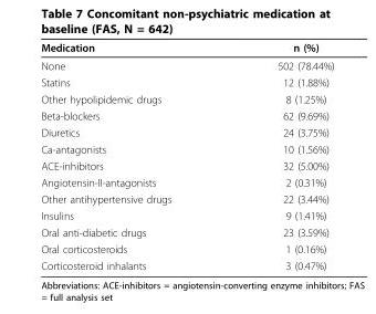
<table><thead><tr><td>Medication</td><td>n (%)</td></tr></thead><tbody><tr><td>None</td><td>502 (78.44%)</td></tr><tr><td>Statins</td><td>12 (1.88%)</td></tr><tr><td>Other hypolipidemic drugs</td><td>8 (1.25%)</td></tr><tr><td>Beta-blockers</td><td>62 (9.69%)</td></tr><tr><td>Diuretics</td><td>24 (3.75%)</td></tr><tr><td>Ca-antagonists</td><td>10 (1.56%)</td></tr><tr><td>ACE-inhibitors</td><td>32 (5.00%)</td></tr><tr><td>Angiotensin-II-antagonists</td><td>2 (0.31%)</td></tr><tr><td>Other antihypertensive drugs</td><td>22 (3.44%)</td></tr><tr><td>Insulins</td><td>9 (1.41%)</td></tr><tr><td>Oral anti-diabetic drugs</td><td>23 (3.59%)</td></tr><tr><td>Oral corticosteroids</td><td>1 (0.16%)</td></tr><tr><td>Corticosteroid inhalants</td><td>3 (0.47%)</td></tr></tbody></table>